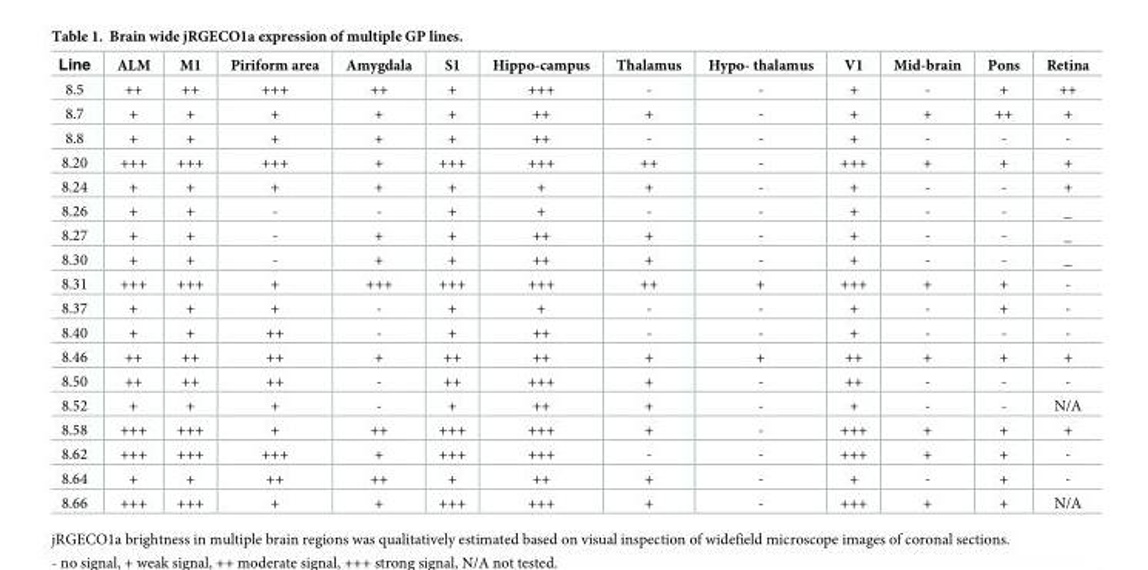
<table><thead><tr><td>Line</td><td>ALM</td><td>M1</td><td>Piriform area</td><td>Amygdala</td><td>S1</td><td>Hippo-campus</td><td>Thalamus</td><td>Hypo- thalamus</td><td>V1</td><td>Mid-brain</td><td>Pons</td><td>Retina</td></tr></thead><tbody><tr><td>8.5</td><td>++</td><td>++</td><td>+++</td><td>++</td><td>+</td><td>+++</td><td>-</td><td>-</td><td>+</td><td>-</td><td>+</td><td>++</td></tr><tr><td>8.7</td><td>+</td><td>+</td><td>+</td><td>+</td><td>+</td><td>++</td><td>+</td><td>-</td><td>+</td><td>+</td><td>++</td><td>+</td></tr><tr><td>8.8</td><td>+</td><td>+</td><td>+</td><td>+</td><td>+</td><td>++</td><td>-</td><td>-</td><td>+</td><td>-</td><td>-</td><td>-</td></tr><tr><td>8.20</td><td>+++</td><td>+++</td><td>+++</td><td>+</td><td>+++</td><td>+++</td><td>++</td><td>-</td><td>+++</td><td>+</td><td>+</td><td>+</td></tr><tr><td>8.24</td><td>+</td><td>+</td><td>+</td><td>+</td><td>+</td><td>+</td><td>+</td><td>-</td><td>+</td><td>-</td><td>-</td><td>+</td></tr><tr><td>8.26</td><td>+</td><td>+</td><td>-</td><td>-</td><td>+</td><td>+</td><td>-</td><td>-</td><td>+</td><td>-</td><td>-</td><td>_</td></tr><tr><td>8.27</td><td>+</td><td>+</td><td>-</td><td>+</td><td>+</td><td>++</td><td>+</td><td>-</td><td>+</td><td>-</td><td>-</td><td>_</td></tr><tr><td>8.30</td><td>+</td><td>+</td><td>-</td><td>+</td><td>+</td><td>++</td><td>+</td><td>-</td><td>+</td><td>-</td><td>-</td><td>_</td></tr><tr><td>8.31</td><td>+++</td><td>+++</td><td>+</td><td>+++</td><td>+++</td><td>+++</td><td>++</td><td>+</td><td>+++</td><td>+</td><td>+</td><td>-</td></tr><tr><td>8.37</td><td>+</td><td>+</td><td>+</td><td>-</td><td>+</td><td>+</td><td>-</td><td>-</td><td>+</td><td>-</td><td>+</td><td>-</td></tr><tr><td>8.40</td><td>+</td><td>+</td><td>++</td><td>-</td><td>+</td><td>++</td><td>-</td><td>-</td><td>+</td><td>-</td><td>-</td><td>-</td></tr><tr><td>8.46</td><td>++</td><td>++</td><td>++</td><td>+</td><td>++</td><td>++</td><td>+</td><td>+</td><td>++</td><td>+</td><td>+</td><td>+</td></tr><tr><td>8.50</td><td>++</td><td>++</td><td>++</td><td>-</td><td>++</td><td>+++</td><td>+</td><td>-</td><td>++</td><td>-</td><td>-</td><td>-</td></tr><tr><td>8.52</td><td>+</td><td>+</td><td>+</td><td>-</td><td>+</td><td>++</td><td>+</td><td>-</td><td>+</td><td>-</td><td>-</td><td>N/A</td></tr><tr><td>8.58</td><td>+++</td><td>+++</td><td>+</td><td>++</td><td>+++</td><td>+++</td><td>+</td><td>-</td><td>+++</td><td>+</td><td>+</td><td>+</td></tr><tr><td>8.62</td><td>+++</td><td>+++</td><td>+++</td><td>+</td><td>+++</td><td>+++</td><td>-</td><td>-</td><td>+++</td><td>+</td><td>+</td><td>-</td></tr><tr><td>8.64</td><td>+</td><td>+</td><td>++</td><td>++</td><td>+</td><td>++</td><td>+</td><td>-</td><td>+</td><td>-</td><td>+</td><td>-</td></tr><tr><td>8.66</td><td>+++</td><td>+++</td><td>+</td><td>+</td><td>+++</td><td>+++</td><td>+</td><td>-</td><td>+++</td><td>+</td><td>+</td><td>N/A</td></tr></tbody></table>